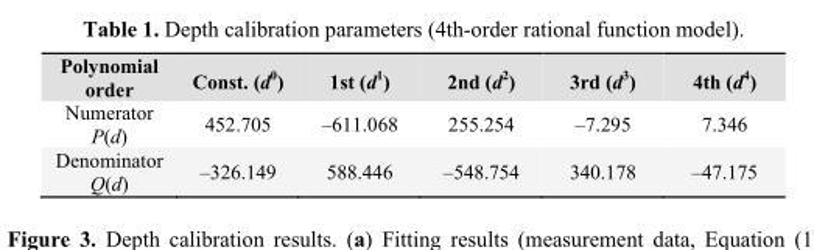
<table><thead><tr><td>Polynomial order</td><td>Const. (d<sup>0</sup>)</td><td>1st (d<sup>1</sup>)</td><td>2nd (d<sup>2</sup>)</td><td>3rd (d<sup>3</sup>)</td><td>4th (d<sup>4</sup>)</td></tr></thead><tbody><tr><td>Numerator P(d)</td><td>452.705</td><td>–611.068</td><td>255.254</td><td>–7.295</td><td>7.346</td></tr><tr><td>Denominator Q(d)</td><td>–326.149</td><td>588.446</td><td>–548.754</td><td>340.178</td><td>–47.175</td></tr></tbody></table>